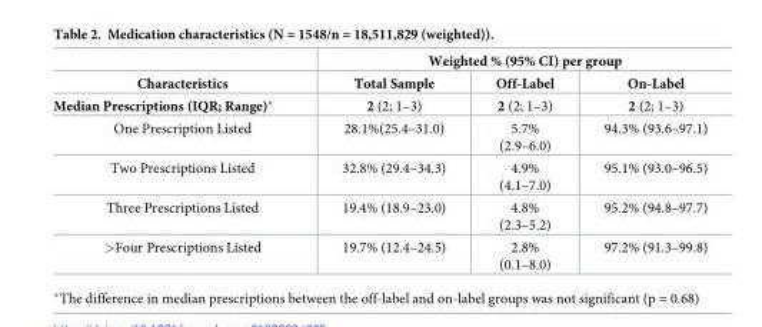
<table><thead><tr><td rowspan="2">Characteristics</td><td colspan="3">Weighted % (95% CI) per group</td></tr><tr><td>Total Sample</td><td>Off-Label</td><td>On-Label</td></tr></thead><tbody><tr><td>Median Prescriptions (IQR; Range)*</td><td>2 (2; 1–3)</td><td>2 (2; 1–3)</td><td>2 (2; 1–3)</td></tr><tr><td>One Prescription Listed</td><td>28.1%(25.4–31.0)</td><td>5.7% (2.9–6.0)</td><td>94.3% (93.6–97.1)</td></tr><tr><td>Two Prescriptions Listed</td><td>32.8% (29.4–34.3)</td><td>4.9% (4.1–7.0)</td><td>95.1% (93.0–96.5)</td></tr><tr><td>Three Prescriptions Listed</td><td>19.4% (18.9–23.0)</td><td>4.8% (2.3–5.2)</td><td>95.2% (94.8–97.7)</td></tr><tr><td>&gt;Four Prescriptions Listed</td><td>19.7% (12.4–24.5)</td><td>2.8% (0.1–8.0)</td><td>97.2% (91.3–99.8)</td></tr></tbody></table>